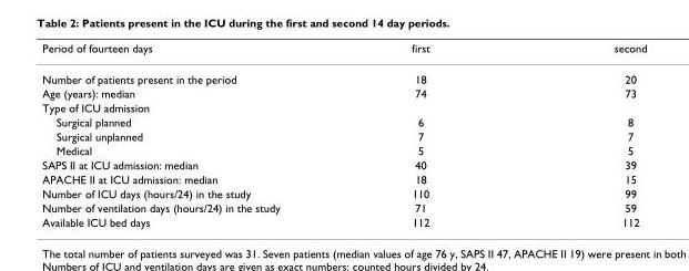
<table><thead><tr><td>Period of fourteen days</td><td>first</td><td>second</td></tr></thead><tbody><tr><td>Number of patients present in the period</td><td>18</td><td>20</td></tr><tr><td>Age (years): median</td><td>74</td><td>73</td></tr><tr><td colspan="3">Type of ICU admission</td></tr><tr><td>Surgical planned</td><td>6</td><td>8</td></tr><tr><td>Surgical unplanned</td><td>7</td><td>7</td></tr><tr><td>Medical</td><td>5</td><td>5</td></tr><tr><td>SAPS II at ICU admission: median</td><td>40</td><td>39</td></tr><tr><td>APACHE II at ICU admission: median</td><td>18</td><td>15</td></tr><tr><td>Number of ICU days (hours/24) in the study</td><td>110</td><td>99</td></tr><tr><td>Number of ventilation days (hours/24) in the study</td><td>71</td><td>59</td></tr><tr><td>Available ICU bed days</td><td>112</td><td>112</td></tr></tbody></table>